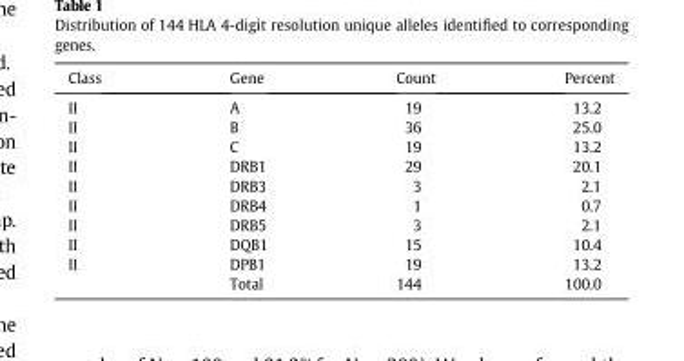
<table><thead><tr><td>Class</td><td>Gene</td><td>Count</td><td>Percent</td></tr></thead><tbody><tr><td>II</td><td>A</td><td>19</td><td>13.2</td></tr><tr><td>II</td><td>B</td><td>36</td><td>25.0</td></tr><tr><td>II</td><td>C</td><td>19</td><td>13.2</td></tr><tr><td>II</td><td>DRB1</td><td>29</td><td>20.1</td></tr><tr><td>II</td><td>DRB3</td><td>3</td><td>2.1</td></tr><tr><td>II</td><td>DRB4</td><td>1</td><td>0.7</td></tr><tr><td>II</td><td>DRB5</td><td>3</td><td>2.1</td></tr><tr><td>II</td><td>DQB1</td><td>15</td><td>10.4</td></tr><tr><td rowspan="2">II</td><td>DPB1</td><td>19</td><td>13.2</td></tr><tr><td>Total</td><td>144</td><td>100.0</td></tr></tbody></table>